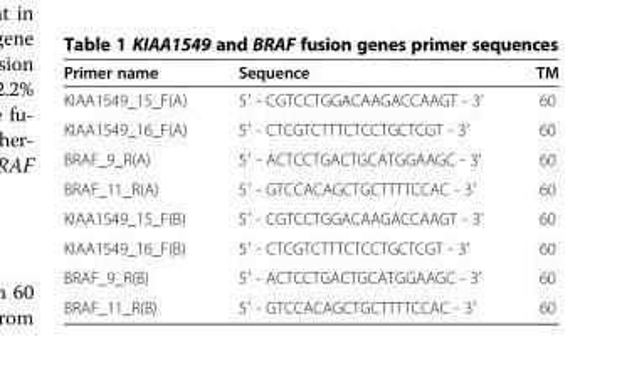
<table><thead><tr><td>Primer name</td><td>Sequence</td><td>TM</td></tr></thead><tbody><tr><td>KIAA1549_15_F(A)</td><td>5′ - CGTCCTGGACAAGACCAAGT - 3′</td><td>60</td></tr><tr><td>KIAA1549_16_F(A)</td><td>5′ - CTCGTCTTTCTCCTGCTCGT - 3′</td><td>60</td></tr><tr><td>BRAF_9_R(A)</td><td>5′ - ACTCCTGACTGCATGGAAGC - 3′</td><td>60</td></tr><tr><td>BRAF_11_R(A)</td><td>5′ - GTCCACAGCTGCTTTTCCAC - 3′</td><td>60</td></tr><tr><td>KIAA1549_15_F(B)</td><td>5′ - CGTCCTGGACAAGACCAAGT - 3′</td><td>60</td></tr><tr><td>KIAA1549_16_F(B)</td><td>5′ - CTCGTCTTTCTCCTGCTCGT - 3′</td><td>60</td></tr><tr><td>BRAF_9_R(B)</td><td>5′ - ACTCCTGACTGCATGGAAGC - 3′</td><td>60</td></tr><tr><td>BRAF_11_R(B)</td><td>5′ - GTCCACAGCTGCTTTTCCAC - 3′</td><td>60</td></tr></tbody></table>